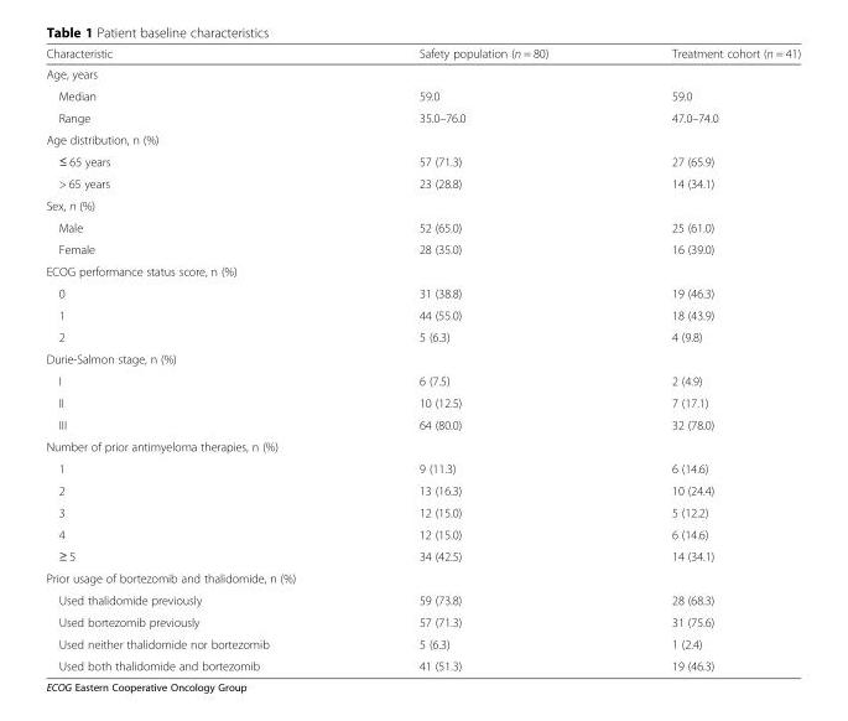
<table><thead><tr><td>Characteristic</td><td>Safety population (n = 80)</td><td>Treatment cohort (n = 41)</td></tr></thead><tbody><tr><td colspan="3">Age, years</td></tr><tr><td>Median</td><td>59.0</td><td>59.0</td></tr><tr><td>Range</td><td>35.0–76.0</td><td>47.0–74.0</td></tr><tr><td colspan="3">Age distribution, n (%)</td></tr><tr><td>≤ 65 years</td><td>57 (71.3)</td><td>27 (65.9)</td></tr><tr><td>&gt; 65 years</td><td>23 (28.8)</td><td>14 (34.1)</td></tr><tr><td colspan="3">Sex, n (%)</td></tr><tr><td>Male</td><td>52 (65.0)</td><td>25 (61.0)</td></tr><tr><td>Female</td><td>28 (35.0)</td><td>16 (39.0)</td></tr><tr><td colspan="3">ECOG performance status score, n (%)</td></tr><tr><td>0</td><td>31 (38.8)</td><td>19 (46.3)</td></tr><tr><td>1</td><td>44 (55.0)</td><td>18 (43.9)</td></tr><tr><td>2</td><td>5 (6.3)</td><td>4 (9.8)</td></tr><tr><td colspan="3">Durie-Salmon stage, n (%)</td></tr><tr><td>I</td><td>6 (7.5)</td><td>2 (4.9)</td></tr><tr><td>II</td><td>10 (12.5)</td><td>7 (17.1)</td></tr><tr><td>III</td><td>64 (80.0)</td><td>32 (78.0)</td></tr><tr><td colspan="3">Number of prior antimyeloma therapies, n (%)</td></tr><tr><td>1</td><td>9 (11.3)</td><td>6 (14.6)</td></tr><tr><td>2</td><td>13 (16.3)</td><td>10 (24.4)</td></tr><tr><td>3</td><td>12 (15.0)</td><td>5 (12.2)</td></tr><tr><td>4</td><td>12 (15.0)</td><td>6 (14.6)</td></tr><tr><td>≥ 5</td><td>34 (42.5)</td><td>14 (34.1)</td></tr><tr><td colspan="3">Prior usage of bortezomib and thalidomide, n (%)</td></tr><tr><td>Used thalidomide previously</td><td>59 (73.8)</td><td>28 (68.3)</td></tr><tr><td>Used bortezomib previously</td><td>57 (71.3)</td><td>31 (75.6)</td></tr><tr><td>Used neither thalidomide nor bortezomib</td><td>5 (6.3)</td><td>1 (2.4)</td></tr><tr><td>Used both thalidomide and bortezomib</td><td>41 (51.3)</td><td>19 (46.3)</td></tr></tbody></table>